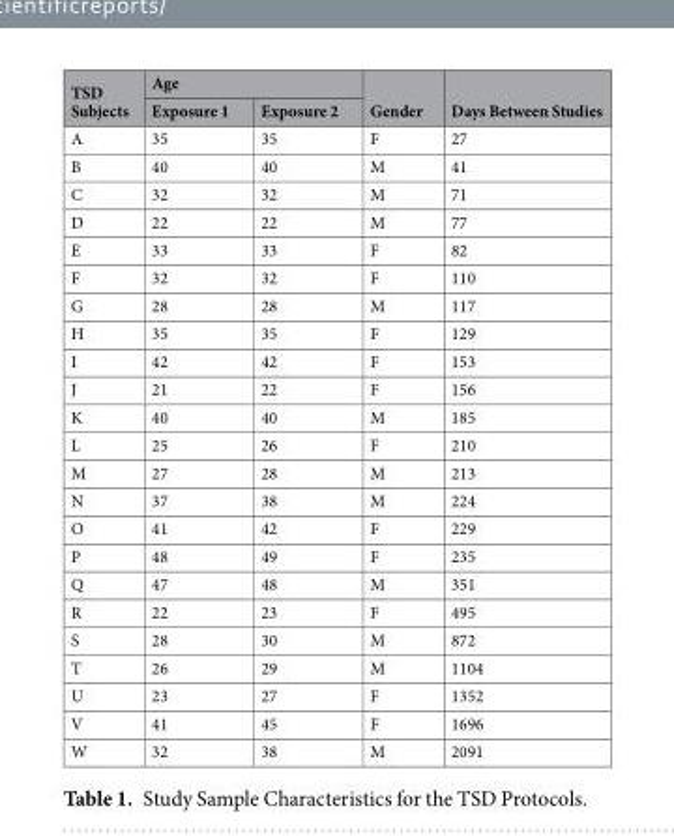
<table><thead><tr><td rowspan="2">TSD Subjects</td><td colspan="2">Age</td><td rowspan="2">Gender</td><td rowspan="2">Days Between Studies</td></tr><tr><td>Exposure 1</td><td>Exposure 2</td></tr></thead><tbody><tr><td>A</td><td>35</td><td>35</td><td>F</td><td>27</td></tr><tr><td>B</td><td>40</td><td>40</td><td>M</td><td>41</td></tr><tr><td>C</td><td>32</td><td>32</td><td>M</td><td>71</td></tr><tr><td>D</td><td>22</td><td>22</td><td>M</td><td>77</td></tr><tr><td>E</td><td>33</td><td>33</td><td>F</td><td>82</td></tr><tr><td>F</td><td>32</td><td>32</td><td>F</td><td>110</td></tr><tr><td>G</td><td>28</td><td>28</td><td>M</td><td>117</td></tr><tr><td>H</td><td>35</td><td>35</td><td>F</td><td>129</td></tr><tr><td>I</td><td>42</td><td>42</td><td>F</td><td>153</td></tr><tr><td>J</td><td>21</td><td>22</td><td>F</td><td>156</td></tr><tr><td>K</td><td>40</td><td>40</td><td>M</td><td>185</td></tr><tr><td>L</td><td>25</td><td>26</td><td>F</td><td>210</td></tr><tr><td>M</td><td>27</td><td>28</td><td>M</td><td>213</td></tr><tr><td>N</td><td>37</td><td>38</td><td>M</td><td>224</td></tr><tr><td>O</td><td>41</td><td>42</td><td>F</td><td>229</td></tr><tr><td>P</td><td>48</td><td>49</td><td>F</td><td>235</td></tr><tr><td>Q</td><td>47</td><td>48</td><td>M</td><td>351</td></tr><tr><td>R</td><td>22</td><td>23</td><td>F</td><td>495</td></tr><tr><td>S</td><td>28</td><td>30</td><td>M</td><td>872</td></tr><tr><td>T</td><td>26</td><td>29</td><td>M</td><td>1104</td></tr><tr><td>U</td><td>23</td><td>27</td><td>F</td><td>1352</td></tr><tr><td>V</td><td>41</td><td>45</td><td>F</td><td>1696</td></tr><tr><td>W</td><td>32</td><td>38</td><td>M</td><td>2091</td></tr></tbody></table>